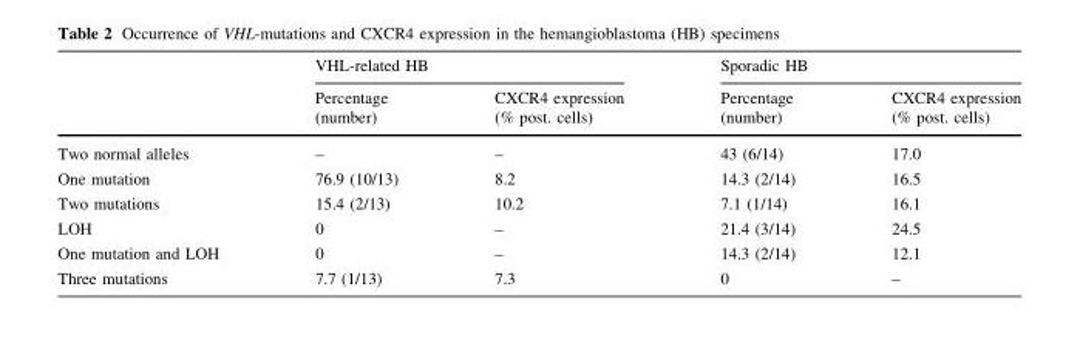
<table><thead><tr><td rowspan="2"></td><td colspan="2">VHL-related HB</td><td colspan="2">Sporadic HB</td></tr><tr><td>Percentage (number)</td><td>CXCR4 expression (% post. cells)</td><td>Percentage (number)</td><td>CXCR4 expression (% post. cells)</td></tr></thead><tbody><tr><td>Two normal alleles</td><td>–</td><td>–</td><td>43 (6/14)</td><td>17.0</td></tr><tr><td>One mutation</td><td>76.9 (10/13)</td><td>8.2</td><td>14.3 (2/14)</td><td>16.5</td></tr><tr><td>Two mutations</td><td>15.4 (2/13)</td><td>10.2</td><td>7.1 (1/14)</td><td>16.1</td></tr><tr><td>LOH</td><td>0</td><td>–</td><td>21.4 (3/14)</td><td>24.5</td></tr><tr><td>One mutation and LOH</td><td>0</td><td>–</td><td>14.3 (2/14)</td><td>12.1</td></tr><tr><td>Three mutations</td><td>7.7 (1/13)</td><td>7.3</td><td>0</td><td>–</td></tr></tbody></table>